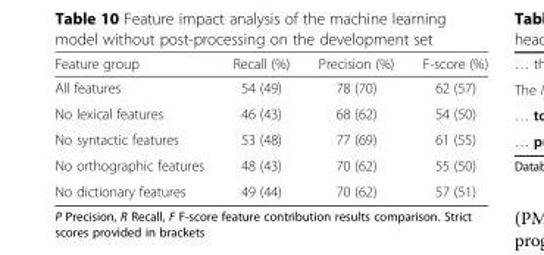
<table><thead><tr><td>Feature group</td><td>Recall (%)</td><td>Precision (%)</td><td>F-score (%)</td></tr></thead><tbody><tr><td>All features</td><td>54 (49)</td><td>78 (70)</td><td>62 (57)</td></tr><tr><td>No lexical features</td><td>46 (43)</td><td>68 (62)</td><td>54 (50)</td></tr><tr><td>No syntactic features</td><td>53 (48)</td><td>77 (69)</td><td>61 (55)</td></tr><tr><td>No orthographic features</td><td>48 (43)</td><td>70 (62)</td><td>55 (50)</td></tr><tr><td>No dictionary features</td><td>49 (44)</td><td>70 (62)</td><td>57 (51)</td></tr></tbody></table>